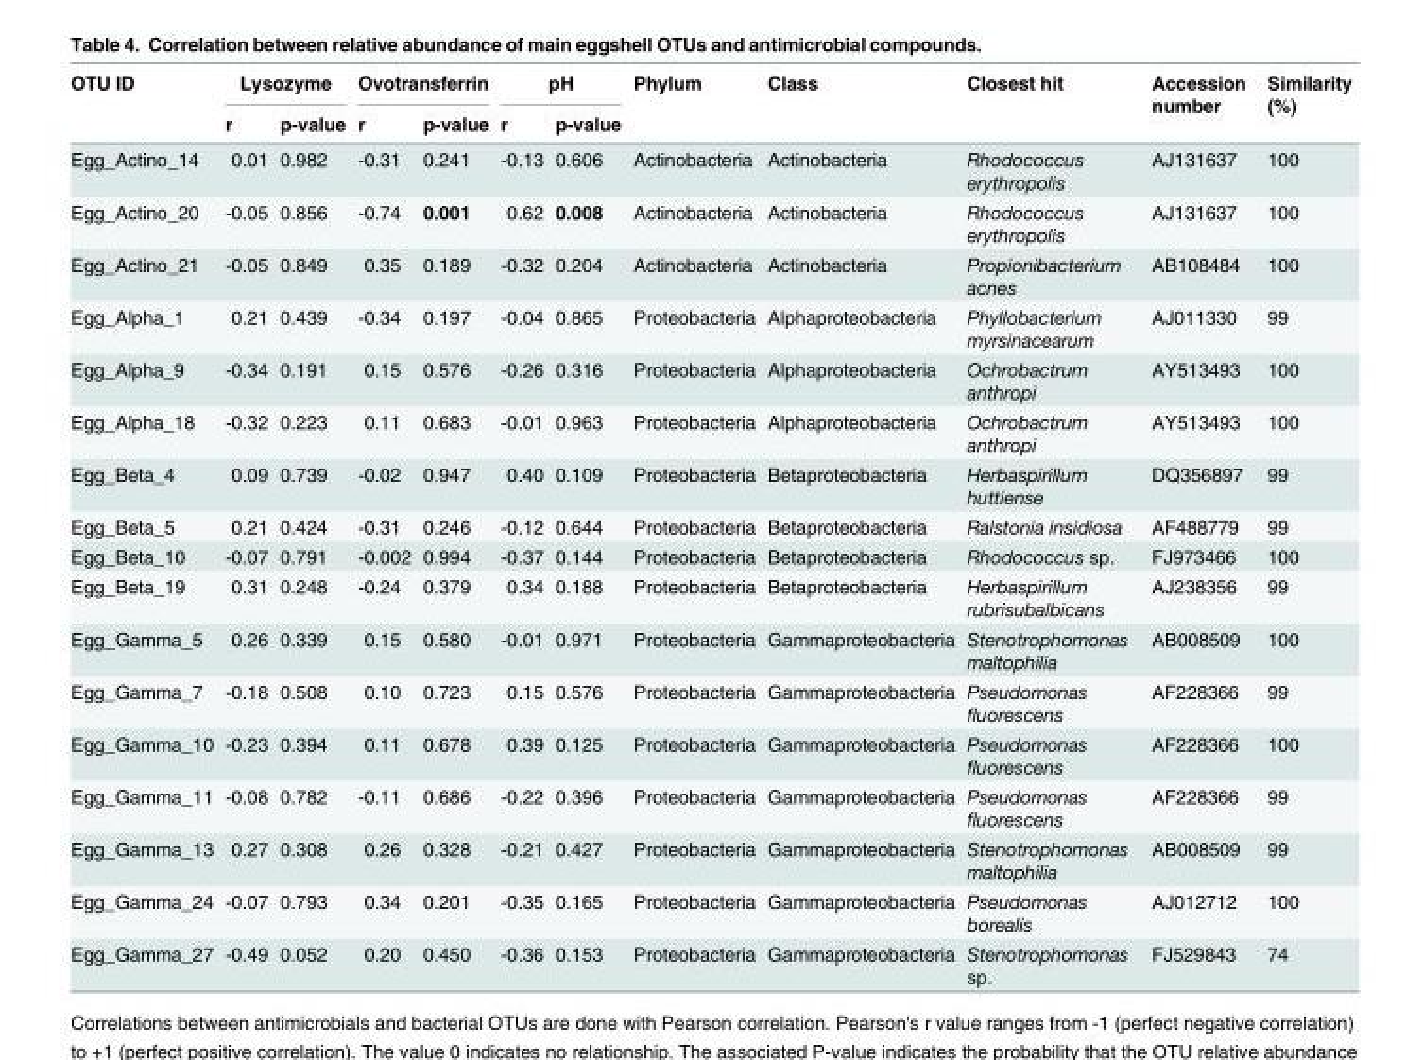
<table><thead><tr><td rowspan="2">OTU ID</td><td colspan="2">Lysozyme</td><td colspan="2">Ovotransferrin</td><td colspan="2">pH</td><td rowspan="2">Phylum</td><td rowspan="2">Class</td><td rowspan="2">Closest hit</td><td rowspan="2">Accession number</td><td rowspan="2">Similarity (%)</td></tr><tr><td>r</td><td>p-value</td><td>r</td><td>p-value</td><td>r</td><td>p-value</td></tr></thead><tbody><tr><td>Egg_Actino_14</td><td>0.01</td><td>0.982</td><td>-0.31</td><td>0.241</td><td>-0.13</td><td>0.606</td><td>Actinobacteria</td><td>Actinobacteria</td><td>Rhodococcus erythropolis</td><td>AJ131637</td><td>100</td></tr><tr><td>Egg_Actino_20</td><td>-0.05</td><td>0.856</td><td>-0.74</td><td>0.001</td><td>0.62</td><td>0.008</td><td>Actinobacteria</td><td>Actinobacteria</td><td>Rhodococcus erythropolis</td><td>AJ131637</td><td>100</td></tr><tr><td>Egg_Actino_21</td><td>-0.05</td><td>0.849</td><td>0.35</td><td>0.189</td><td>-0.32</td><td>0.204</td><td>Actinobacteria</td><td>Actinobacteria</td><td>Propionibacterium acnes</td><td>AB108484</td><td>100</td></tr><tr><td>Egg_Alpha_1</td><td>0.21</td><td>0.439</td><td>-0.34</td><td>0.197</td><td>-0.04</td><td>0.865</td><td>Proteobacteria</td><td>Alphaproteobacteria</td><td>Phyllobacterium myrsinacearum</td><td>AJ011330</td><td>99</td></tr><tr><td>Egg_Alpha_9</td><td>-0.34</td><td>0.191</td><td>0.15</td><td>0.576</td><td>-0.26</td><td>0.316</td><td>Proteobacteria</td><td>Alphaproteobacteria</td><td>Ochrobactrum anthropi</td><td>AY513493</td><td>100</td></tr><tr><td>Egg_Alpha_18</td><td>-0.32</td><td>0.223</td><td>0.11</td><td>0.683</td><td>-0.01</td><td>0.963</td><td>Proteobacteria</td><td>Alphaproteobacteria</td><td>Ochrobactrum anthropi</td><td>AY513493</td><td>100</td></tr><tr><td>Egg_Beta_4</td><td>0.09</td><td>0.739</td><td>-0.02</td><td>0.947</td><td>0.40</td><td>0.109</td><td>Proteobacteria</td><td>Betaproteobacteria</td><td>Herbaspirillum huttiense</td><td>DQ356897</td><td>99</td></tr><tr><td>Egg_Beta_5</td><td>0.21</td><td>0.424</td><td>-0.31</td><td>0.246</td><td>-0.12</td><td>0.644</td><td>Proteobacteria</td><td>Betaproteobacteria</td><td>Ralstonia insidiosa</td><td>AF488779</td><td>99</td></tr><tr><td>Egg_Beta_10</td><td>-0.07</td><td>0.791</td><td>-0.002</td><td>0.994</td><td>-0.37</td><td>0.144</td><td>Proteobacteria</td><td>Betaproteobacteria</td><td>Rhodococcus sp.</td><td>FJ973466</td><td>100</td></tr><tr><td>Egg_Beta_19</td><td>0.31</td><td>0.248</td><td>-0.24</td><td>0.379</td><td>0.34</td><td>0.188</td><td>Proteobacteria</td><td>Betaproteobacteria</td><td>Herbaspirillum rubrisubalbicans</td><td>AJ238356</td><td>99</td></tr><tr><td>Egg_Gamma_5</td><td>0.26</td><td>0.339</td><td>0.15</td><td>0.580</td><td>-0.01</td><td>0.971</td><td>Proteobacteria</td><td>Gammaproteobacteria</td><td>Stenotrophomonas maltophilia</td><td>AB008509</td><td>100</td></tr><tr><td>Egg_Gamma_7</td><td>-0.18</td><td>0.508</td><td>0.10</td><td>0.723</td><td>0.15</td><td>0.576</td><td>Proteobacteria</td><td>Gammaproteobacteria</td><td>Pseudomonas fluorescens</td><td>AF228366</td><td>99</td></tr><tr><td>Egg_Gamma_10</td><td>-0.23</td><td>0.394</td><td>0.11</td><td>0.678</td><td>0.39</td><td>0.125</td><td>Proteobacteria</td><td>Gammaproteobacteria</td><td>Pseudomonas fluorescens</td><td>AF228366</td><td>100</td></tr><tr><td>Egg_Gamma_11</td><td>-0.08</td><td>0.782</td><td>-0.11</td><td>0.686</td><td>-0.22</td><td>0.396</td><td>Proteobacteria</td><td>Gammaproteobacteria</td><td>Pseudomonas fluorescens</td><td>AF228366</td><td>99</td></tr><tr><td>Egg_Gamma_13</td><td>0.27</td><td>0.308</td><td>0.26</td><td>0.328</td><td>-0.21</td><td>0.427</td><td>Proteobacteria</td><td>Gammaproteobacteria</td><td>Stenotrophomonas maltophilia</td><td>AB008509</td><td>99</td></tr><tr><td>Egg_Gamma_24</td><td>-0.07</td><td>0.793</td><td>0.34</td><td>0.201</td><td>-0.35</td><td>0.165</td><td>Proteobacteria</td><td>Gammaproteobacteria</td><td>Pseudomonas borealis</td><td>AJ012712</td><td>100</td></tr><tr><td>Egg_Gamma_27</td><td>-0.49</td><td>0.052</td><td>0.20</td><td>0.450</td><td>-0.36</td><td>0.153</td><td>Proteobacteria</td><td>Gammaproteobacteria</td><td>Stenotrophomonas sp.</td><td>FJ529843</td><td>74</td></tr></tbody></table>